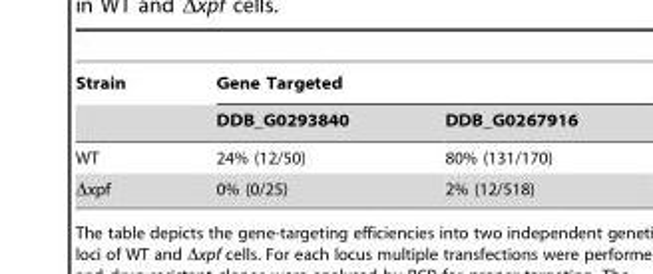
<table><thead><tr><td rowspan="2">Strain</td><td colspan="2">Gene Targeted</td></tr><tr><td>DDB_G0293840</td><td>DDB_G0267916</td></tr></thead><tbody><tr><td>WT</td><td>24% (12/50)</td><td>80% (131/170)</td></tr><tr><td>Δxpf</td><td>0% (0/25)</td><td>2% (12/518)</td></tr></tbody></table>